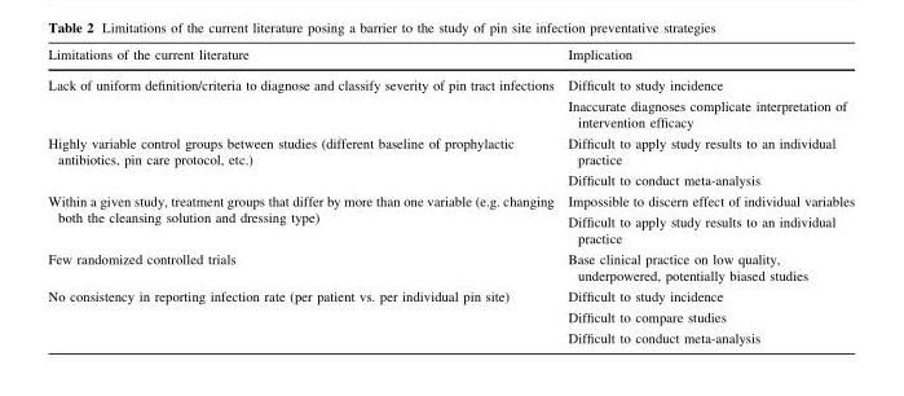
<table><thead><tr><td>Limitations of the current literature</td><td>Implication</td></tr></thead><tbody><tr><td>Lack of uniform definition/criteria to diagnose and classify severity of pin tract infections</td><td>Difficult to study incidence Inaccurate diagnoses complicate interpretation of intervention efficacy</td></tr><tr><td>Highly variable control groups between studies (different baseline of prophylactic antibiotics, pin care protocol, etc.)</td><td>Difficult to apply study results to an individual practice Difficult to conduct meta-analysis</td></tr><tr><td>Within a given study, treatment groups that differ by more than one variable (e.g. changing both the cleansing solution and dressing type)</td><td>Impossible to discern effect of individual variables Difficult to apply study results to an individual practice</td></tr><tr><td>Few randomized controlled trials</td><td>Base clinical practice on low quality, underpowered, potentially biased studies</td></tr><tr><td>No consistency in reporting infection rate (per patient vs. per individual pin site)</td><td>Difficult to study incidence Difficult to compare studies Difficult to conduct meta-analysis</td></tr></tbody></table>